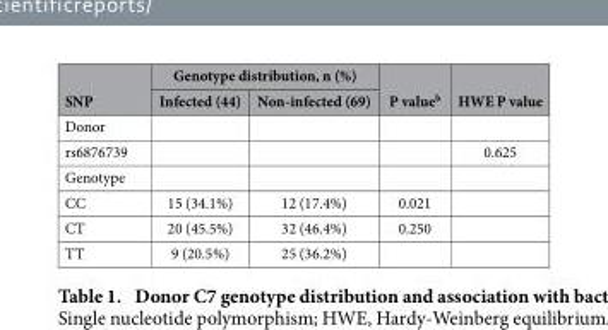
<table><thead><tr><td rowspan="2">SNP</td><td colspan="2">Genotype distribution, n (%)</td><td rowspan="2">P value<sup>b</sup></td><td rowspan="2">HWE P value</td></tr><tr><td>Infected (44)</td><td>Non-infected (69)</td></tr></thead><tbody><tr><td colspan="5">Donor</td></tr><tr><td>rs6876739</td><td></td><td></td><td></td><td>0.625</td></tr><tr><td colspan="5">Genotype</td></tr><tr><td>CC</td><td>15 (34.1%)</td><td>12 (17.4%)</td><td>0.021</td><td></td></tr><tr><td>CT</td><td>20 (45.5%)</td><td>32 (46.4%)</td><td>0.250</td><td></td></tr><tr><td>TT</td><td>9 (20.5%)</td><td>25 (36.2%)</td><td></td><td></td></tr></tbody></table>